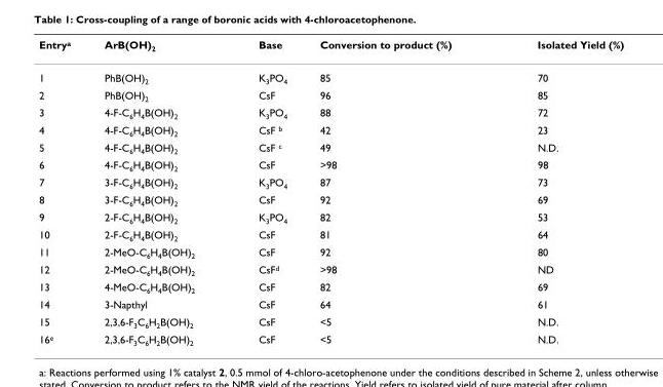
<table><thead><tr><td>Entry<sup>a</sup></td><td>ArB(OH)<sub>2</sub></td><td>Base</td><td>Conversion to product (%)</td><td>Isolated Yield (%)</td></tr></thead><tbody><tr><td>1</td><td>PhB(OH)<sub>2</sub></td><td>K<sub>3</sub>PO<sub>4</sub></td><td>85</td><td>70</td></tr><tr><td>2</td><td>PhB(OH)<sub>2</sub></td><td>CsF</td><td>96</td><td>85</td></tr><tr><td>3</td><td>4-F-C<sub>6</sub>H<sub>4</sub>B(OH)<sub>2</sub></td><td>K<sub>3</sub>PO<sub>4</sub></td><td>88</td><td>72</td></tr><tr><td>4</td><td>4-F-C<sub>6</sub>H<sub>4</sub>B(OH)<sub>2</sub></td><td>CsF <sup>b</sup></td><td>42</td><td>23</td></tr><tr><td>5</td><td>4-F-C<sub>6</sub>H<sub>4</sub>B(OH)<sub>2</sub></td><td>CsF <sup>c</sup></td><td>49</td><td>N.D.</td></tr><tr><td>6</td><td>4-F-C<sub>6</sub>H<sub>4</sub>B(OH)<sub>2</sub></td><td>CsF</td><td>&gt;98</td><td>98</td></tr><tr><td>7</td><td>3-F-C<sub>6</sub>H<sub>4</sub>B(OH)<sub>2</sub></td><td>K<sub>3</sub>PO<sub>4</sub></td><td>87</td><td>73</td></tr><tr><td>8</td><td>3-F-C<sub>6</sub>H<sub>4</sub>B(OH)<sub>2</sub></td><td>CsF</td><td>92</td><td>69</td></tr><tr><td>9</td><td>2-F-C<sub>6</sub>H<sub>4</sub>B(OH)<sub>2</sub></td><td>K<sub>3</sub>PO<sub>4</sub></td><td>82</td><td>53</td></tr><tr><td>10</td><td>2-F-C<sub>6</sub>H<sub>4</sub>B(OH)<sub>2</sub></td><td>CsF</td><td>81</td><td>64</td></tr><tr><td>11</td><td>2-MeO-C<sub>6</sub>H<sub>4</sub>B(OH)<sub>2</sub></td><td>CsF</td><td>92</td><td>80</td></tr><tr><td>12</td><td>2-MeO-C<sub>6</sub>H<sub>4</sub>B(OH)<sub>2</sub></td><td>CsF<sup>d</sup></td><td>&gt;98</td><td>ND</td></tr><tr><td>13</td><td>4-MeO-C<sub>6</sub>H<sub>4</sub>B(OH)<sub>2</sub></td><td>CsF</td><td>82</td><td>69</td></tr><tr><td>14</td><td>3-Napthyl</td><td>CsF</td><td>64</td><td>61</td></tr><tr><td>15</td><td>2,3,6-F<sub>3</sub>C<sub>6</sub>H<sub>2</sub>B(OH)<sub>2</sub></td><td>CsF</td><td>&lt;5</td><td>N.D.</td></tr><tr><td>16<sup>e</sup></td><td>2,3,6-F<sub>3</sub>C<sub>6</sub>H<sub>2</sub>B(OH)<sub>2</sub></td><td>CsF</td><td>&lt;5</td><td>N.D.</td></tr></tbody></table>